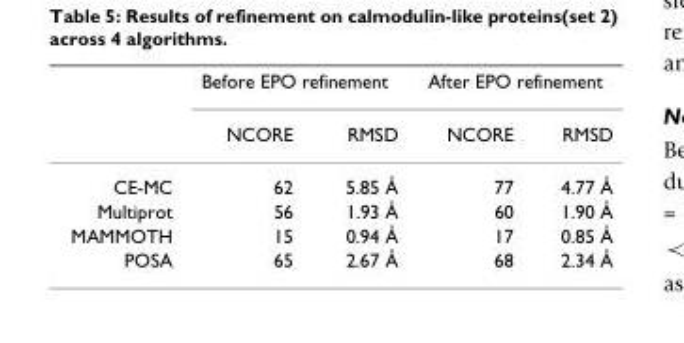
<table><thead><tr><td rowspan="2"></td><td colspan="2">Before EPO refinement</td><td colspan="2">After EPO refinement</td></tr><tr><td>NCORE</td><td>RMSD</td><td>NCORE</td><td>RMSD</td></tr></thead><tbody><tr><td>CE-MC</td><td>62</td><td>5.85 Å</td><td>77</td><td>4.77 Å</td></tr><tr><td>Multiprot</td><td>56</td><td>1.93 Å</td><td>60</td><td>1.90 Å</td></tr><tr><td>MAMMOTH</td><td>15</td><td>0.94 Å</td><td>17</td><td>0.85 Å</td></tr><tr><td>POSA</td><td>65</td><td>2.67 Å</td><td>68</td><td>2.34 Å</td></tr></tbody></table>